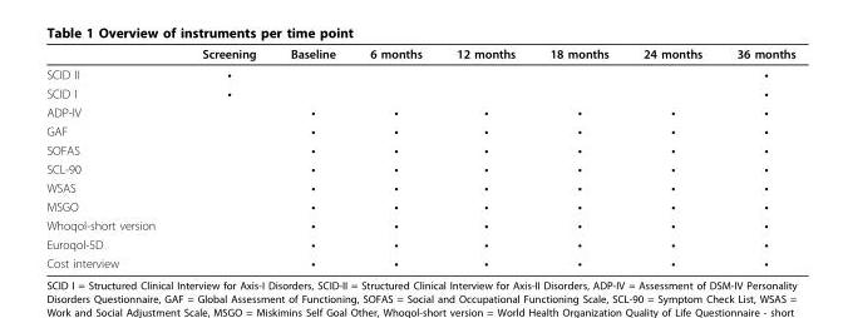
<table><thead><tr><td></td><td>Screening</td><td>Baseline</td><td>6 months</td><td>12 months</td><td>18 months</td><td>24 months</td><td>36 months</td></tr></thead><tbody><tr><td>SCID II</td><td>•</td><td></td><td></td><td></td><td></td><td></td><td>•</td></tr><tr><td>SCID I</td><td>•</td><td></td><td></td><td></td><td></td><td></td><td>•</td></tr><tr><td>ADP-IV</td><td></td><td>•</td><td>•</td><td>•</td><td>•</td><td>•</td><td>•</td></tr><tr><td>GAF</td><td></td><td>•</td><td>•</td><td>•</td><td>•</td><td>•</td><td>•</td></tr><tr><td>SOFAS</td><td></td><td>•</td><td>•</td><td>•</td><td>•</td><td>•</td><td>•</td></tr><tr><td>SCL-90</td><td></td><td>•</td><td>•</td><td>•</td><td>•</td><td>•</td><td>•</td></tr><tr><td>WSAS</td><td></td><td>•</td><td>•</td><td>•</td><td>•</td><td>•</td><td>•</td></tr><tr><td>MSGO</td><td></td><td>•</td><td>•</td><td>•</td><td>•</td><td>•</td><td>•</td></tr><tr><td>Whoqol-short version</td><td></td><td>•</td><td>•</td><td>•</td><td>•</td><td>•</td><td>•</td></tr><tr><td>Euroqol-5D</td><td></td><td>•</td><td>•</td><td>•</td><td>•</td><td>•</td><td>•</td></tr><tr><td>Cost interview</td><td></td><td>•</td><td>•</td><td>•</td><td>•</td><td>•</td><td>•</td></tr></tbody></table>